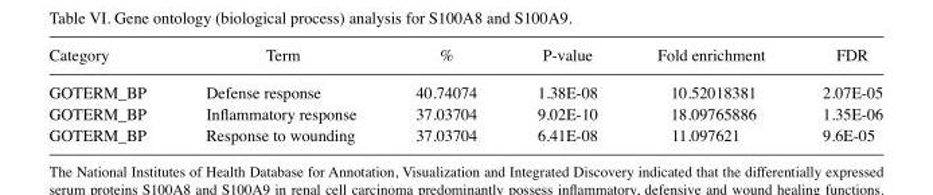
<table><thead><tr><td>Category</td><td>Term</td><td>%</td><td>P-value</td><td>Fold enrichment</td><td>FDR</td></tr></thead><tbody><tr><td>GOTERM_BP</td><td>Defense response</td><td>40.74074</td><td>1.38E-08</td><td>10.52018381</td><td>2.07E-05</td></tr><tr><td>GOTERM_BP</td><td>Inflammatory response</td><td>37.03704</td><td>9.02E‑10</td><td>18.09765886</td><td>1.35E‑06</td></tr><tr><td>GOTERM_BP</td><td>Response to wounding</td><td>37.03704</td><td>6.41E-08</td><td>11.097621</td><td>9.6E-05</td></tr></tbody></table>